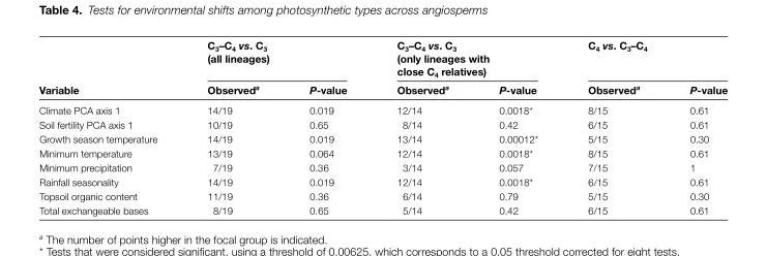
<table><thead><tr><td rowspan="2">Variable</td><td colspan="2">C<sub>3</sub>–C<sub>4</sub> vs. C<sub>3</sub> (all lineages)</td><td colspan="2">C<sub>3</sub>–C<sub>4</sub> vs. C<sub>3</sub> (only lineages with close C<sub>4</sub> relatives)</td><td colspan="2">C<sub>4</sub> vs. C<sub>3</sub>–C<sub>4</sub></td></tr><tr><td>Observed<sup>a</sup></td><td>P-value</td><td>Observed<sup>a</sup></td><td>P-value</td><td>Observed<sup>a</sup></td><td>P-value</td></tr></thead><tbody><tr><td>Climate PCA axis 1</td><td>14/19</td><td>0.019</td><td>12/14</td><td>0.0018*</td><td>8/15</td><td>0.61</td></tr><tr><td>Soil fertility PCA axis 1</td><td>10/19</td><td>0.65</td><td>8/14</td><td>0.42</td><td>6/15</td><td>0.61</td></tr><tr><td>Growth season temperature</td><td>14/19</td><td>0.019</td><td>13/14</td><td>0.00012*</td><td>5/15</td><td>0.30</td></tr><tr><td>Minimum temperature</td><td>13/19</td><td>0.064</td><td>12/14</td><td>0.0018*</td><td>8/15</td><td>0.61</td></tr><tr><td>Minimum precipitation</td><td>7/19</td><td>0.36</td><td>3/14</td><td>0.057</td><td>7/15</td><td>1</td></tr><tr><td>Rainfall seasonality</td><td>14/19</td><td>0.019</td><td>12/14</td><td>0.0018*</td><td>6/15</td><td>0.61</td></tr><tr><td>Topsoil organic content</td><td>11/19</td><td>0.36</td><td>6/14</td><td>0.79</td><td>5/15</td><td>0.30</td></tr><tr><td>Total exchangeable bases</td><td>8/19</td><td>0.65</td><td>5/14</td><td>0.42</td><td>6/15</td><td>0.61</td></tr></tbody></table>